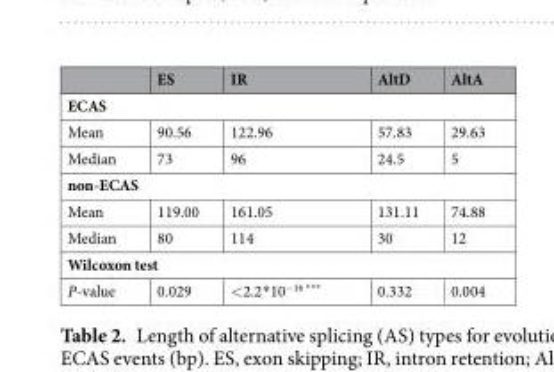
<table><thead><tr><td></td><td>ES</td><td>IR</td><td>AltD</td><td>AltA</td></tr></thead><tbody><tr><td colspan="5">ECAS</td></tr><tr><td>Mean</td><td>90.56</td><td>122.96</td><td>57.83</td><td>29.63</td></tr><tr><td>Median</td><td>73</td><td>96</td><td>24.5</td><td>5</td></tr><tr><td colspan="5">non-ECAS</td></tr><tr><td>Mean</td><td>119.00</td><td>161.05</td><td>131.11</td><td>74.88</td></tr><tr><td>Median</td><td>80</td><td>114</td><td>30</td><td>12</td></tr><tr><td colspan="5">Wilcoxon test</td></tr><tr><td>P-value</td><td>0.029</td><td>&lt;2.2*10<sup>−16 ***</sup></td><td>0.332</td><td>0.004</td></tr></tbody></table>